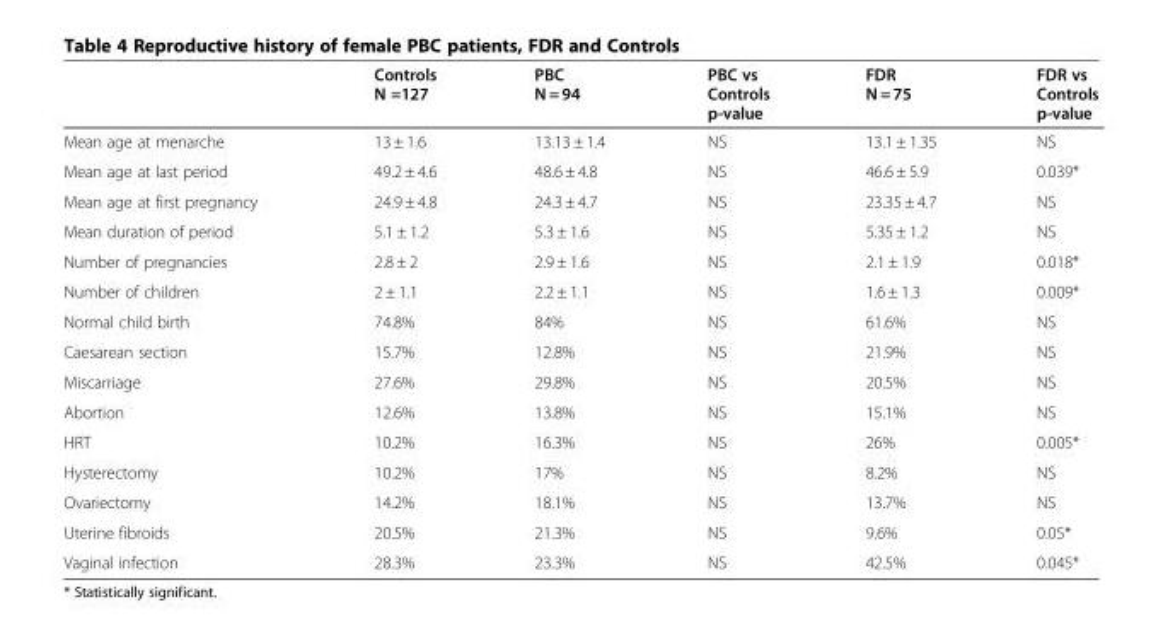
<table><thead><tr><td></td><td>Controls N =127</td><td>PBC N = 94</td><td>PBC vs Controls p-value</td><td>FDR N = 75</td><td>FDR vs Controls p-value</td></tr></thead><tbody><tr><td>Mean age at menarche</td><td>13 ± 1.6</td><td>13.13 ± 1.4</td><td>NS</td><td>13.1 ± 1.35</td><td>NS</td></tr><tr><td>Mean age at last period</td><td>49.2 ± 4.6</td><td>48.6 ± 4.8</td><td>NS</td><td>46.6 ± 5.9</td><td>0.039*</td></tr><tr><td>Mean age at first pregnancy</td><td>24.9 ± 4.8</td><td>24.3 ± 4.7</td><td>NS</td><td>23.35 ± 4.7</td><td>NS</td></tr><tr><td>Mean duration of period</td><td>5.1 ± 1.2</td><td>5.3 ± 1.6</td><td>NS</td><td>5.35 ± 1.2</td><td>NS</td></tr><tr><td>Number of pregnancies</td><td>2.8 ± 2</td><td>2.9 ± 1.6</td><td>NS</td><td>2.1 ± 1.9</td><td>0.018*</td></tr><tr><td>Number of children</td><td>2 ± 1.1</td><td>2.2 ± 1.1</td><td>NS</td><td>1.6 ± 1.3</td><td>0.009*</td></tr><tr><td>Normal child birth</td><td>74.8%</td><td>84%</td><td>NS</td><td>61.6%</td><td>NS</td></tr><tr><td>Caesarean section</td><td>15.7%</td><td>12.8%</td><td>NS</td><td>21.9%</td><td>NS</td></tr><tr><td>Miscarriage</td><td>27.6%</td><td>29.8%</td><td>NS</td><td>20.5%</td><td>NS</td></tr><tr><td>Abortion</td><td>12.6%</td><td>13.8%</td><td>NS</td><td>15.1%</td><td>NS</td></tr><tr><td>HRT</td><td>10.2%</td><td>16.3%</td><td>NS</td><td>26%</td><td>0.005*</td></tr><tr><td>Hysterectomy</td><td>10.2%</td><td>17%</td><td>NS</td><td>8.2%</td><td>NS</td></tr><tr><td>Ovariectomy</td><td>14.2%</td><td>18.1%</td><td>NS</td><td>13.7%</td><td>NS</td></tr><tr><td>Uterine fibroids</td><td>20.5%</td><td>21.3%</td><td>NS</td><td>9.6%</td><td>0.05*</td></tr><tr><td>Vaginal infection</td><td>28.3%</td><td>23.3%</td><td>NS</td><td>42.5%</td><td>0.045*</td></tr></tbody></table>